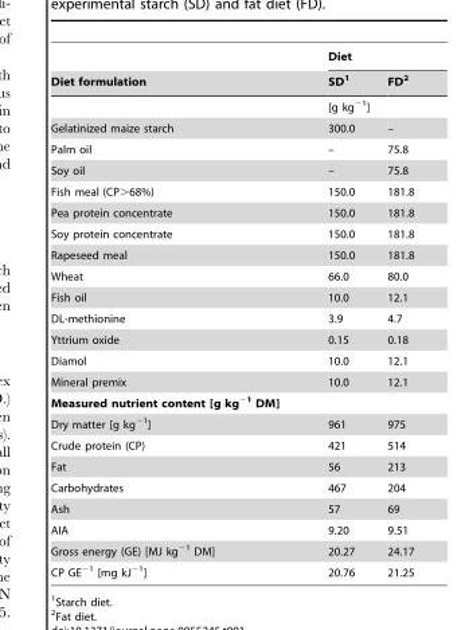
<table><thead><tr><td rowspan="2">Diet formulation</td><td colspan="2">Diet</td></tr><tr><td>SD<sup>1</sup></td><td>FD<sup>2</sup></td></tr></thead><tbody><tr><td></td><td>[g kg<sup>−1</sup>]</td><td></td></tr><tr><td>Gelatinized maize starch</td><td>300.0</td><td>–</td></tr><tr><td>Palm oil</td><td>–</td><td>75.8</td></tr><tr><td>Soy oil</td><td>–</td><td>75.8</td></tr><tr><td>Fish meal (CP&gt;68%)</td><td>150.0</td><td>181.8</td></tr><tr><td>Pea protein concentrate</td><td>150.0</td><td>181.8</td></tr><tr><td>Soy protein concentrate</td><td>150.0</td><td>181.8</td></tr><tr><td>Rapeseed meal</td><td>150.0</td><td>181.8</td></tr><tr><td>Wheat</td><td>66.0</td><td>80.0</td></tr><tr><td>Fish oil</td><td>10.0</td><td>12.1</td></tr><tr><td>DL-methionine</td><td>3.9</td><td>4.7</td></tr><tr><td>Yttrium oxide</td><td>0.15</td><td>0.18</td></tr><tr><td>Diamol</td><td>10.0</td><td>12.1</td></tr><tr><td>Mineral premix</td><td>10.0</td><td>12.1</td></tr><tr><td colspan="3">Measured nutrient content [g kg<sup>−1</sup> DM]</td></tr><tr><td>Dry matter [g kg<sup>−1</sup>]</td><td>961</td><td>975</td></tr><tr><td>Crude protein (CP)</td><td>421</td><td>514</td></tr><tr><td>Fat</td><td>56</td><td>213</td></tr><tr><td>Carbohydrates</td><td>467</td><td>204</td></tr><tr><td>Ash</td><td>57</td><td>69</td></tr><tr><td>AIA</td><td>9.20</td><td>9.51</td></tr><tr><td>Gross energy (GE) [MJ kg<sup>−1</sup> DM]</td><td>20.27</td><td>24.17</td></tr><tr><td>CP GE<sup>−1</sup> [mg kJ<sup>−1</sup>]</td><td>20.76</td><td>21.25</td></tr></tbody></table>